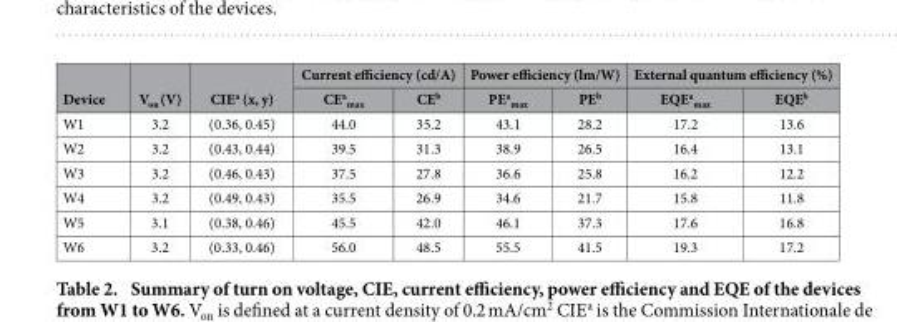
<table><thead><tr><td rowspan="2">Device</td><td rowspan="2">V<sub>on</sub> (V)</td><td rowspan="2">CIE<sup>a</sup> (x, y)</td><td colspan="2">Current efficiency (cd/A)</td><td colspan="2">Power efficiency (lm/W)</td><td colspan="2">External quantum efficiency (%)</td></tr><tr><td>CE<sup>a</sup> <sub>max</sub></td><td>CE<sup>b</sup></td><td>PE<sup>a</sup> <sub>max</sub></td><td>PE<sup>b</sup></td><td>EQE<sup>a</sup> <sub>max</sub></td><td>EQE<sup>b</sup></td></tr></thead><tbody><tr><td>W1</td><td>3.2</td><td>(0.36, 0.45)</td><td>44.0</td><td>35.2</td><td>43.1</td><td>28.2</td><td>17.2</td><td>13.6</td></tr><tr><td>W2</td><td>3.2</td><td>(0.43, 0.44)</td><td>39.5</td><td>31.3</td><td>38.9</td><td>26.5</td><td>16.4</td><td>13.1</td></tr><tr><td>W3</td><td>3.2</td><td>(0.46, 0.43)</td><td>37.5</td><td>27.8</td><td>36.6</td><td>25.8</td><td>16.2</td><td>12.2</td></tr><tr><td>W4</td><td>3.2</td><td>(0.49, 0.43)</td><td>35.5</td><td>26.9</td><td>34.6</td><td>21.7</td><td>15.8</td><td>11.8</td></tr><tr><td>W5</td><td>3.1</td><td>(0.38, 0.46)</td><td>45.5</td><td>42.0</td><td>46.1</td><td>37.3</td><td>17.6</td><td>16.8</td></tr><tr><td>W6</td><td>3.2</td><td>(0.33, 0.46)</td><td>56.0</td><td>48.5</td><td>55.5</td><td>41.5</td><td>19.3</td><td>17.2</td></tr></tbody></table>